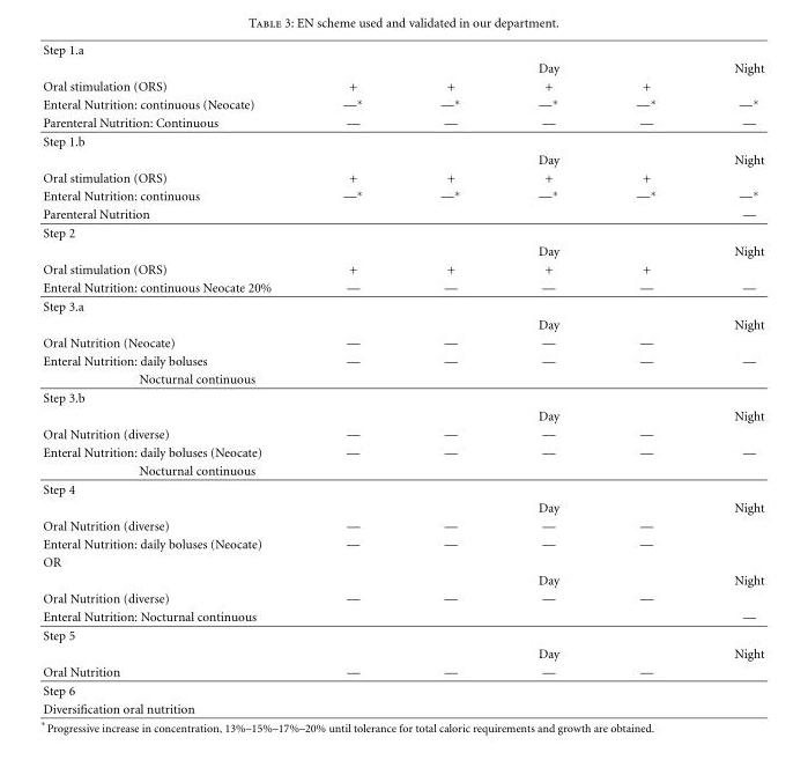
<table><tbody><tr><td colspan="6">Step 1.a</td></tr><tr><td></td><td></td><td></td><td>Day</td><td></td><td>Night</td></tr><tr><td>Oral stimulation (ORS)</td><td>+</td><td>+</td><td>+</td><td>+</td><td></td></tr><tr><td>Enteral Nutrition: continuous (Neocate)</td><td>—∗</td><td>—∗</td><td>—∗</td><td>—∗</td><td>—∗</td></tr><tr><td>Parenteral Nutrition: Continuous</td><td>—</td><td>—</td><td>—</td><td>—</td><td>—</td></tr><tr><td colspan="6">Step 1.b</td></tr><tr><td></td><td></td><td></td><td>Day</td><td></td><td>Night</td></tr><tr><td>Oral stimulation (ORS)</td><td>+</td><td>+</td><td>+</td><td>+</td><td></td></tr><tr><td>Enteral Nutrition: continuous</td><td>—∗</td><td>—∗</td><td>—∗</td><td>—∗</td><td>—∗</td></tr><tr><td>Parenteral Nutrition</td><td></td><td></td><td></td><td></td><td>—</td></tr><tr><td colspan="6">Step 2</td></tr><tr><td></td><td></td><td></td><td>Day</td><td></td><td>Night</td></tr><tr><td>Oral stimulation (ORS)</td><td>+</td><td>+</td><td>+</td><td>+</td><td></td></tr><tr><td>Enteral Nutrition: continuous Neocate 20%</td><td>—</td><td>—</td><td>—</td><td>—</td><td>—</td></tr><tr><td colspan="6">Step 3.a</td></tr><tr><td></td><td></td><td></td><td>Day</td><td></td><td>Night</td></tr><tr><td>Oral Nutrition (Neocate)</td><td>—</td><td>—</td><td>—</td><td>—</td><td></td></tr><tr><td>Enteral Nutrition: daily boluses</td><td>—</td><td>—</td><td>—</td><td>—</td><td>—</td></tr><tr><td colspan="6">Nocturnal continuous</td></tr><tr><td colspan="6">Step 3.b</td></tr><tr><td></td><td></td><td></td><td>Day</td><td></td><td>Night</td></tr><tr><td>Oral Nutrition (diverse)</td><td>—</td><td>—</td><td>—</td><td>—</td><td></td></tr><tr><td>Enteral Nutrition: daily boluses (Neocate)</td><td>—</td><td>—</td><td>—</td><td>—</td><td>—</td></tr><tr><td colspan="6">Nocturnal continuous</td></tr><tr><td colspan="6">Step 4</td></tr><tr><td></td><td></td><td></td><td>Day</td><td></td><td>Night</td></tr><tr><td>Oral Nutrition (diverse)</td><td>—</td><td>—</td><td>—</td><td>—</td><td></td></tr><tr><td>Enteral Nutrition: daily boluses (Neocate)</td><td>—</td><td>—</td><td>—</td><td>—</td><td></td></tr><tr><td colspan="6">OR</td></tr><tr><td></td><td></td><td></td><td>Day</td><td></td><td>Night</td></tr><tr><td>Oral Nutrition (diverse)</td><td>—</td><td>—</td><td>—</td><td>—</td><td></td></tr><tr><td>Enteral Nutrition: Nocturnal continuous</td><td></td><td></td><td></td><td></td><td>—</td></tr><tr><td colspan="6">Step 5</td></tr><tr><td></td><td></td><td></td><td>Day</td><td></td><td>Night</td></tr><tr><td>Oral Nutrition</td><td>—</td><td>—</td><td>—</td><td>—</td><td></td></tr><tr><td colspan="6">Step 6</td></tr><tr><td>Diversification oral nutrition</td><td></td><td></td><td></td><td></td><td></td></tr></tbody></table>